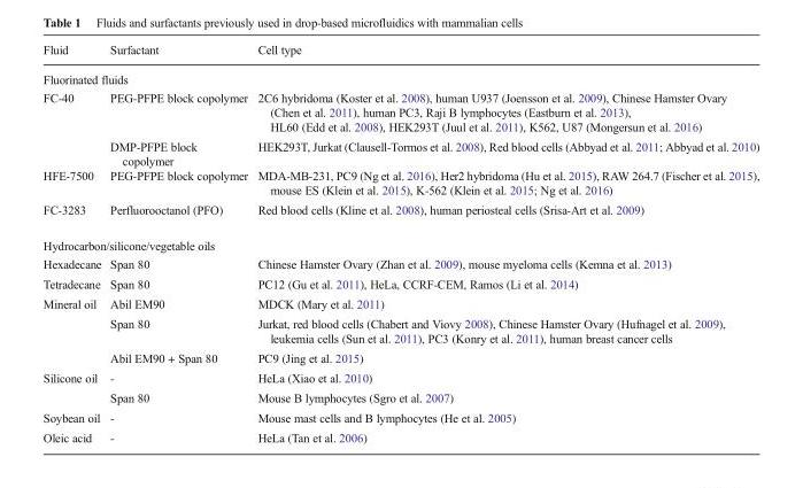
<table><thead><tr><td>Fluid</td><td>Surfactant</td><td>Cell type</td></tr></thead><tbody><tr><td colspan="3">Fluorinated fluids</td></tr><tr><td rowspan="2">FC-40</td><td>PEG-PFPE block copolymer</td><td>2C6 hybridoma (Koster et al. 2008), human U937 (Joensson et al. 2009), Chinese Hamster Ovary (Chen et al. 2011), human PC3, Raji B lymphocytes (Eastburn et al. 2013), HL60 (Edd et al. 2008), HEK293T (Juul et al. 2011), K562, U87 (Mongersun et al. 2016)</td></tr><tr><td>DMP-PFPE block copolymer</td><td>HEK293T, Jurkat (Clausell-Tormos et al. 2008), Red blood cells (Abbyad et al. 2011; Abbyad et al. 2010)</td></tr><tr><td>HFE-7500</td><td>PEG-PFPE block copolymer</td><td>MDA-MB-231, PC9 (Ng et al. 2016), Her2 hybridoma (Hu et al. 2015), RAW 264.7 (Fischer et al. 2015), mouse ES (Klein et al. 2015), K-562 (Klein et al. 2015; Ng et al. 2016)</td></tr><tr><td>FC-3283</td><td>Perfluorooctanol (PFO)</td><td>Red blood cells (Kline et al. 2008), human periosteal cells (Srisa-Art et al. 2009)</td></tr><tr><td colspan="3">Hydrocarbon/silicone/vegetable oils</td></tr><tr><td>Hexadecane</td><td>Span 80</td><td>Chinese Hamster Ovary (Zhan et al. 2009), mouse myeloma cells (Kemna et al. 2013)</td></tr><tr><td>Tetradecane</td><td>Span 80</td><td>PC12 (Gu et al. 2011), HeLa, CCRF-CEM, Ramos (Li et al. 2014)</td></tr><tr><td rowspan="3">Mineral oil</td><td>Abil EM90</td><td>MDCK (Mary et al. 2011)</td></tr><tr><td>Span 80</td><td>Jurkat, red blood cells (Chabert and Viovy 2008), Chinese Hamster Ovary (Hufnagel et al. 2009), leukemia cells (Sun et al. 2011), PC3 (Konry et al. 2011), human breast cancer cells</td></tr><tr><td>Abil EM90 + Span 80</td><td>PC9 (Jing et al. 2015)</td></tr><tr><td rowspan="2">Silicone oil</td><td>-</td><td>HeLa (Xiao et al. 2010)</td></tr><tr><td>Span 80</td><td>Mouse B lymphocytes (Sgro et al. 2007)</td></tr><tr><td>Soybean oil</td><td>-</td><td>Mouse mast cells and B lymphocytes (He et al. 2005)</td></tr><tr><td>Oleic acid</td><td>-</td><td>HeLa (Tan et al. 2006)</td></tr></tbody></table>